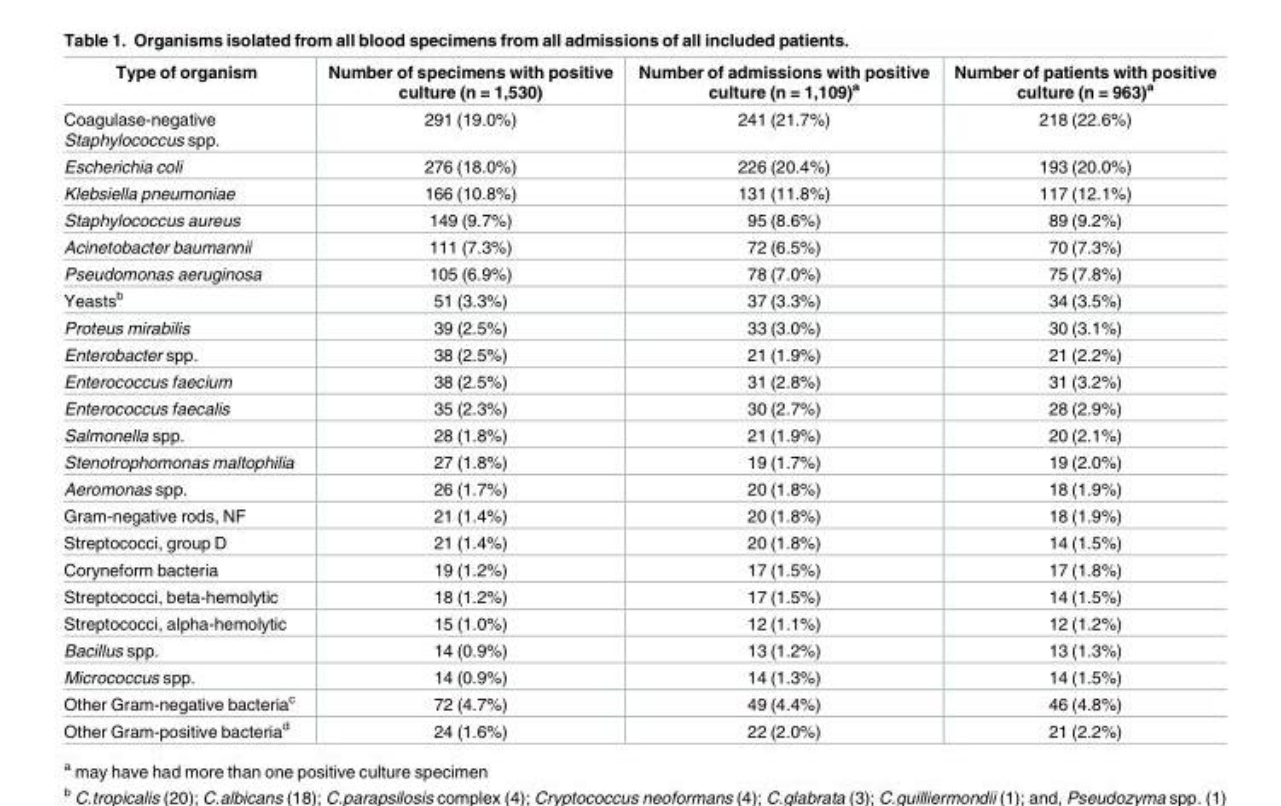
<table><thead><tr><td>Type of organism</td><td>Number of specimens with positive culture (n = 1,530)</td><td>Number of admissions with positive culture (n = 1,109)<sup>a</sup></td><td>Number of patients with positive culture (n = 963)<sup>a</sup></td></tr></thead><tbody><tr><td>Coagulase-negative Staphylococcus spp.</td><td>291 (19.0%)</td><td>241 (21.7%)</td><td>218 (22.6%)</td></tr><tr><td>Escherichia coli</td><td>276 (18.0%)</td><td>226 (20.4%)</td><td>193 (20.0%)</td></tr><tr><td>Klebsiella pneumoniae</td><td>166 (10.8%)</td><td>131 (11.8%)</td><td>117 (12.1%)</td></tr><tr><td>Staphylococcus aureus</td><td>149 (9.7%)</td><td>95 (8.6%)</td><td>89 (9.2%)</td></tr><tr><td>Acinetobacter baumannii</td><td>111 (7.3%)</td><td>72 (6.5%)</td><td>70 (7.3%)</td></tr><tr><td>Pseudomonas aeruginosa</td><td>105 (6.9%)</td><td>78 (7.0%)</td><td>75 (7.8%)</td></tr><tr><td>Yeasts<sup>b</sup></td><td>51 (3.3%)</td><td>37 (3.3%)</td><td>34 (3.5%)</td></tr><tr><td>Proteus mirabilis</td><td>39 (2.5%)</td><td>33 (3.0%)</td><td>30 (3.1%)</td></tr><tr><td>Enterobacter spp.</td><td>38 (2.5%)</td><td>21 (1.9%)</td><td>21 (2.2%)</td></tr><tr><td>Enterococcus faecium</td><td>38 (2.5%)</td><td>31 (2.8%)</td><td>31 (3.2%)</td></tr><tr><td>Enterococcus faecalis</td><td>35 (2.3%)</td><td>30 (2.7%)</td><td>28 (2.9%)</td></tr><tr><td>Salmonella spp.</td><td>28 (1.8%)</td><td>21 (1.9%)</td><td>20 (2.1%)</td></tr><tr><td>Stenotrophomonas maltophilia</td><td>27 (1.8%)</td><td>19 (1.7%)</td><td>19 (2.0%)</td></tr><tr><td>Aeromonas spp.</td><td>26 (1.7%)</td><td>20 (1.8%)</td><td>18 (1.9%)</td></tr><tr><td>Gram-negative rods, NF</td><td>21 (1.4%)</td><td>20 (1.8%)</td><td>18 (1.9%)</td></tr><tr><td>Streptococci, group D</td><td>21 (1.4%)</td><td>20 (1.8%)</td><td>14 (1.5%)</td></tr><tr><td>Coryneform bacteria</td><td>19 (1.2%)</td><td>17 (1.5%)</td><td>17 (1.8%)</td></tr><tr><td>Streptococci, beta-hemolytic</td><td>18 (1.2%)</td><td>17 (1.5%)</td><td>14 (1.5%)</td></tr><tr><td>Streptococci, alpha-hemolytic</td><td>15 (1.0%)</td><td>12 (1.1%)</td><td>12 (1.2%)</td></tr><tr><td>Bacillus spp.</td><td>14 (0.9%)</td><td>13 (1.2%)</td><td>13 (1.3%)</td></tr><tr><td>Micrococcus spp.</td><td>14 (0.9%)</td><td>14 (1.3%)</td><td>14 (1.5%)</td></tr><tr><td>Other Gram-negative bacteria<sup>c</sup></td><td>72 (4.7%)</td><td>49 (4.4%)</td><td>46 (4.8%)</td></tr><tr><td>Other Gram-positive bacteria<sup>d</sup></td><td>24 (1.6%)</td><td>22 (2.0%)</td><td>21 (2.2%)</td></tr></tbody></table>